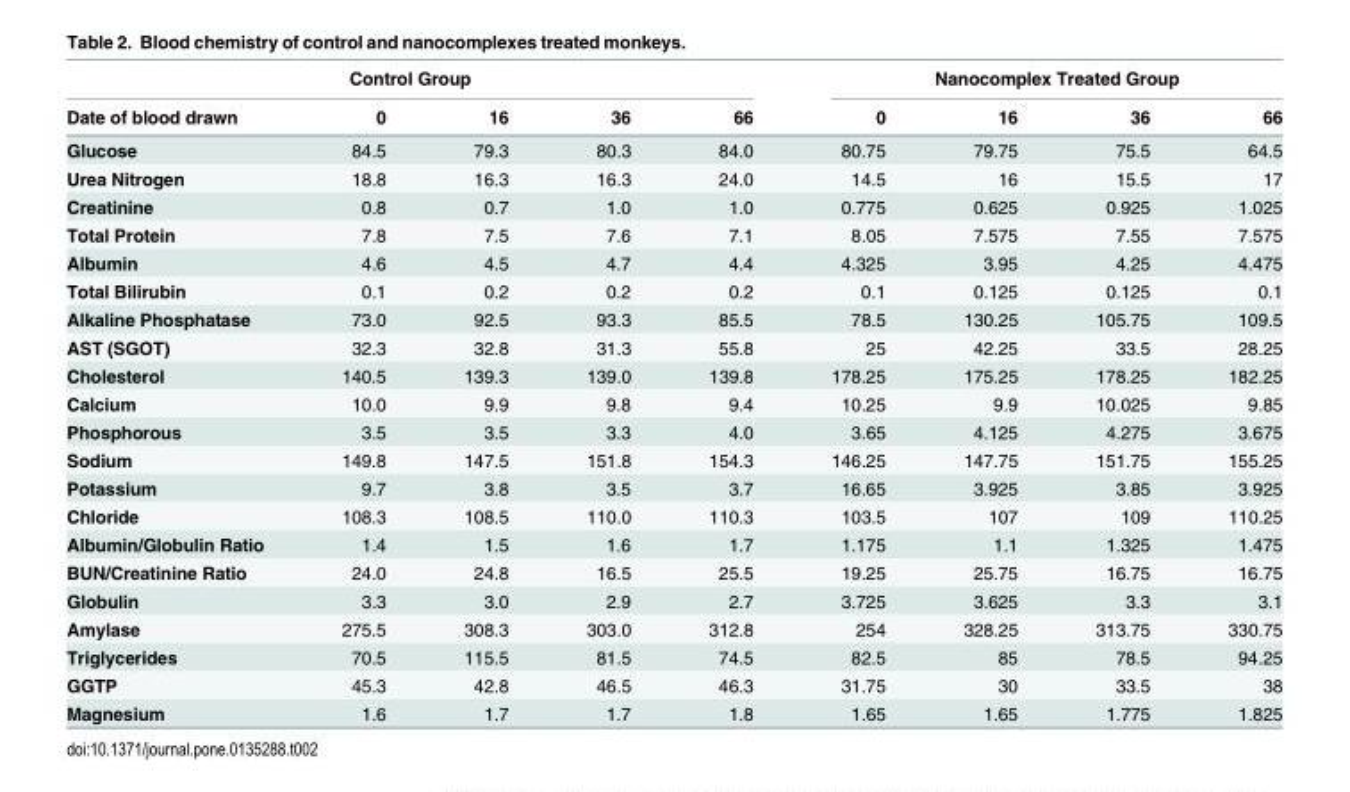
<table><thead><tr><td colspan="5">Control Group</td><td colspan="4">Nanocomplex Treated Group</td></tr><tr><td>Date of blood drawn</td><td>0</td><td>16</td><td>36</td><td>66</td><td>0</td><td>16</td><td>36</td><td>66</td></tr></thead><tbody><tr><td>Glucose</td><td>84.5</td><td>79.3</td><td>80.3</td><td>84.0</td><td>80.75</td><td>79.75</td><td>75.5</td><td>64.5</td></tr><tr><td>Urea Nitrogen</td><td>18.8</td><td>16.3</td><td>16.3</td><td>24.0</td><td>14.5</td><td>16</td><td>15.5</td><td>17</td></tr><tr><td>Creatinine</td><td>0.8</td><td>0.7</td><td>1.0</td><td>1.0</td><td>0.775</td><td>0.625</td><td>0.925</td><td>1.025</td></tr><tr><td>Total Protein</td><td>7.8</td><td>7.5</td><td>7.6</td><td>7.1</td><td>8.05</td><td>7.575</td><td>7.55</td><td>7.575</td></tr><tr><td>Albumin</td><td>4.6</td><td>4.5</td><td>4.7</td><td>4.4</td><td>4.325</td><td>3.95</td><td>4.25</td><td>4.475</td></tr><tr><td>Total Bilirubin</td><td>0.1</td><td>0.2</td><td>0.2</td><td>0.2</td><td>0.1</td><td>0.125</td><td>0.125</td><td>0.1</td></tr><tr><td>Alkaline Phosphatase</td><td>73.0</td><td>92.5</td><td>93.3</td><td>85.5</td><td>78.5</td><td>130.25</td><td>105.75</td><td>109.5</td></tr><tr><td>AST (SGOT)</td><td>32.3</td><td>32.8</td><td>31.3</td><td>55.8</td><td>25</td><td>42.25</td><td>33.5</td><td>28.25</td></tr><tr><td>Cholesterol</td><td>140.5</td><td>139.3</td><td>139.0</td><td>139.8</td><td>178.25</td><td>175.25</td><td>178.25</td><td>182.25</td></tr><tr><td>Calcium</td><td>10.0</td><td>9.9</td><td>9.8</td><td>9.4</td><td>10.25</td><td>9.9</td><td>10.025</td><td>9.85</td></tr><tr><td>Phosphorous</td><td>3.5</td><td>3.5</td><td>3.3</td><td>4.0</td><td>3.65</td><td>4.125</td><td>4.275</td><td>3.675</td></tr><tr><td>Sodium</td><td>149.8</td><td>147.5</td><td>151.8</td><td>154.3</td><td>146.25</td><td>147.75</td><td>151.75</td><td>155.25</td></tr><tr><td>Potassium</td><td>9.7</td><td>3.8</td><td>3.5</td><td>3.7</td><td>16.65</td><td>3.925</td><td>3.85</td><td>3.925</td></tr><tr><td>Chloride</td><td>108.3</td><td>108.5</td><td>110.0</td><td>110.3</td><td>103.5</td><td>107</td><td>109</td><td>110.25</td></tr><tr><td>Albumin/Globulin Ratio</td><td>1.4</td><td>1.5</td><td>1.6</td><td>1.7</td><td>1.175</td><td>1.1</td><td>1.325</td><td>1.475</td></tr><tr><td>BUN/Creatinine Ratio</td><td>24.0</td><td>24.8</td><td>16.5</td><td>25.5</td><td>19.25</td><td>25.75</td><td>16.75</td><td>16.75</td></tr><tr><td>Globulin</td><td>3.3</td><td>3.0</td><td>2.9</td><td>2.7</td><td>3.725</td><td>3.625</td><td>3.3</td><td>3.1</td></tr><tr><td>Amylase</td><td>275.5</td><td>308.3</td><td>303.0</td><td>312.8</td><td>254</td><td>328.25</td><td>313.75</td><td>330.75</td></tr><tr><td>Triglycerides</td><td>70.5</td><td>115.5</td><td>81.5</td><td>74.5</td><td>82.5</td><td>85</td><td>78.5</td><td>94.25</td></tr><tr><td>GGTP</td><td>45.3</td><td>42.8</td><td>46.5</td><td>46.3</td><td>31.75</td><td>30</td><td>33.5</td><td>38</td></tr><tr><td>Magnesium</td><td>1.6</td><td>1.7</td><td>1.7</td><td>1.8</td><td>1.65</td><td>1.65</td><td>1.775</td><td>1.825</td></tr></tbody></table>